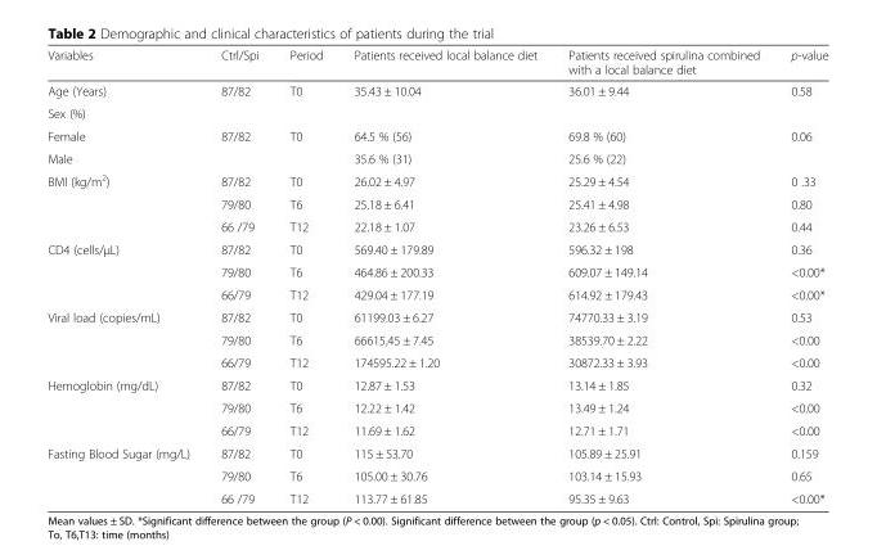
<table><thead><tr><td>Variables</td><td>Ctrl/Spi</td><td>Period</td><td>Patients received local balance diet</td><td>Patients received spirulina combined with a local balance diet</td><td>p-value</td></tr></thead><tbody><tr><td>Age (Years)</td><td>87/82</td><td>T0</td><td>35.43 ± 10.04</td><td>36.01 ± 9.44</td><td>0.58</td></tr><tr><td colspan="6">Sex (%)</td></tr><tr><td>Female</td><td rowspan="2">87/82</td><td rowspan="2">T0</td><td>64.5 % (56)</td><td>69.8 % (60)</td><td rowspan="2">0.06</td></tr><tr><td>Male</td><td>35.6 % (31)</td><td>25.6 % (22)</td></tr><tr><td rowspan="3">BMI (kg/m<sup>2</sup>)</td><td>87/82</td><td>T0</td><td>26.02 ± 4.97</td><td>25.29 ± 4.54</td><td>0 .33</td></tr><tr><td>79/80</td><td>T6</td><td>25.18 ± 6.41</td><td>25.41 ± 4.98</td><td>0.80</td></tr><tr><td>66 /79</td><td>T12</td><td>22.18 ± 1.07</td><td>23.26 ± 6.53</td><td>0.44</td></tr><tr><td rowspan="3">CD4 (cells/μL)</td><td>87/82</td><td>T0</td><td>569.40 ± 179.89</td><td>596.32 ± 198</td><td>0.36</td></tr><tr><td>79/80</td><td>T6</td><td>464.86 ± 200.33</td><td>609.07 ± 149.14</td><td>&lt;0.00*</td></tr><tr><td>66/79</td><td>T12</td><td>429.04 ± 177.19</td><td>614.92 ± 179.43</td><td>&lt;0.00*</td></tr><tr><td rowspan="3">Viral load (copies/mL)</td><td>87/82</td><td>T0</td><td>61199.03 ± 6.27</td><td>74770.33 ± 3.19</td><td>0.53</td></tr><tr><td>79/80</td><td>T6</td><td>66615,45 ± 7.45</td><td>38539.70 ± 2.22</td><td>&lt;0.00</td></tr><tr><td>66/79</td><td>T12</td><td>174595.22 ± 1.20</td><td>30872.33 ± 3.93</td><td>&lt;0.00</td></tr><tr><td rowspan="3">Hemoglobin (mg/dL)</td><td>87/82</td><td>T0</td><td>12.87 ± 1.53</td><td>13.14 ± 1.85</td><td>0.32</td></tr><tr><td>79/80</td><td>T6</td><td>12.22 ± 1.42</td><td>13.49 ± 1.24</td><td>&lt;0.00</td></tr><tr><td>66/79</td><td>T12</td><td>11.69 ± 1.62</td><td>12.71 ± 1.71</td><td>&lt;0.00</td></tr><tr><td rowspan="3">Fasting Blood Sugar (mg/L)</td><td>87/82</td><td>T0</td><td>115 ± 53.70</td><td>105.89 ± 25.91</td><td>0.159</td></tr><tr><td>79/80</td><td>T6</td><td>105.00 ± 30.76</td><td>103.14 ± 15.93</td><td>0.65</td></tr><tr><td>66 /79</td><td>T12</td><td>113.77 ± 61.85</td><td>95.35 ± 9.63</td><td>&lt;0.00*</td></tr></tbody></table>